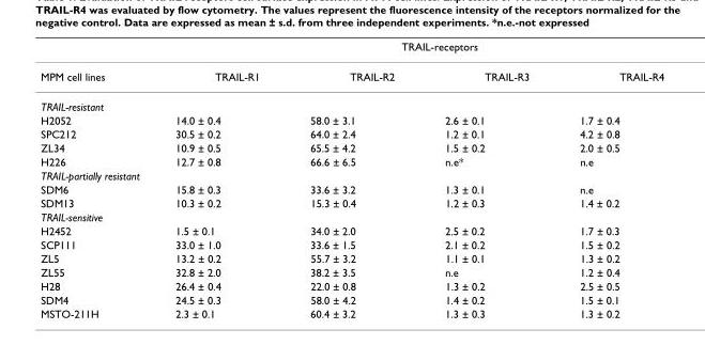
<table><thead><tr><td rowspan="2">MPM cell lines</td><td colspan="4">TRAIL-receptors</td></tr><tr><td>TRAIL-R1</td><td>TRAIL-R2</td><td>TRAIL-R3</td><td>TRAIL-R4</td></tr></thead><tbody><tr><td colspan="5">TRAIL-resistant</td></tr><tr><td>H2052</td><td>14.0 ± 0.4</td><td>58.0 ± 3.1</td><td>2.6 ± 0.1</td><td>1.7 ± 0.4</td></tr><tr><td>SPC212</td><td>30.5 ± 0.2</td><td>64.0 ± 2.4</td><td>1.2 ± 0.1</td><td>4.2 ± 0.8</td></tr><tr><td>ZL34</td><td>10.9 ± 0.5</td><td>65.5 ± 4.2</td><td>1.5 ± 0.2</td><td>2.0 ± 0.5</td></tr><tr><td>H226</td><td>12.7 ± 0.8</td><td>66.6 ± 6.5</td><td>n.e*</td><td>n.e</td></tr><tr><td colspan="5">TRAIL-partially resistant</td></tr><tr><td>SDM6</td><td>15.8 ± 0.3</td><td>33.6 ± 3.2</td><td>1.3 ± 0.1</td><td>n.e</td></tr><tr><td>SDM13</td><td>10.3 ± 0.2</td><td>15.3 ± 0.4</td><td>1.2 ± 0.3</td><td>1.4 ± 0.2</td></tr><tr><td colspan="5">TRAIL-sensitive</td></tr><tr><td>H2452</td><td>1.5 ± 0.1</td><td>34.0 ± 2.0</td><td>2.5 ± 0.2</td><td>1.7 ± 0.3</td></tr><tr><td>SCP111</td><td>33.0 ± 1.0</td><td>33.6 ± 1.5</td><td>2.1 ± 0.2</td><td>1.5 ± 0.2</td></tr><tr><td>ZL5</td><td>13.2 ± 0.2</td><td>55.7 ± 3.2</td><td>1.1 ± 0.1</td><td>1.3 ± 0.2</td></tr><tr><td>ZL55</td><td>32.8 ± 2.0</td><td>38.2 ± 3.5</td><td>n.e</td><td>1.2 ± 0.4</td></tr><tr><td>H28</td><td>26.4 ± 0.4</td><td>22.0 ± 0.8</td><td>1.3 ± 0.2</td><td>2.5 ± 0.5</td></tr><tr><td>SDM4</td><td>24.5 ± 0.3</td><td>58.0 ± 4.2</td><td>1.4 ± 0.2</td><td>1.5 ± 0.1</td></tr><tr><td>MSTO-211H</td><td>2.3 ± 0.1</td><td>60.4 ± 3.2</td><td>1.3 ± 0.3</td><td>1.3 ± 0.2</td></tr></tbody></table>